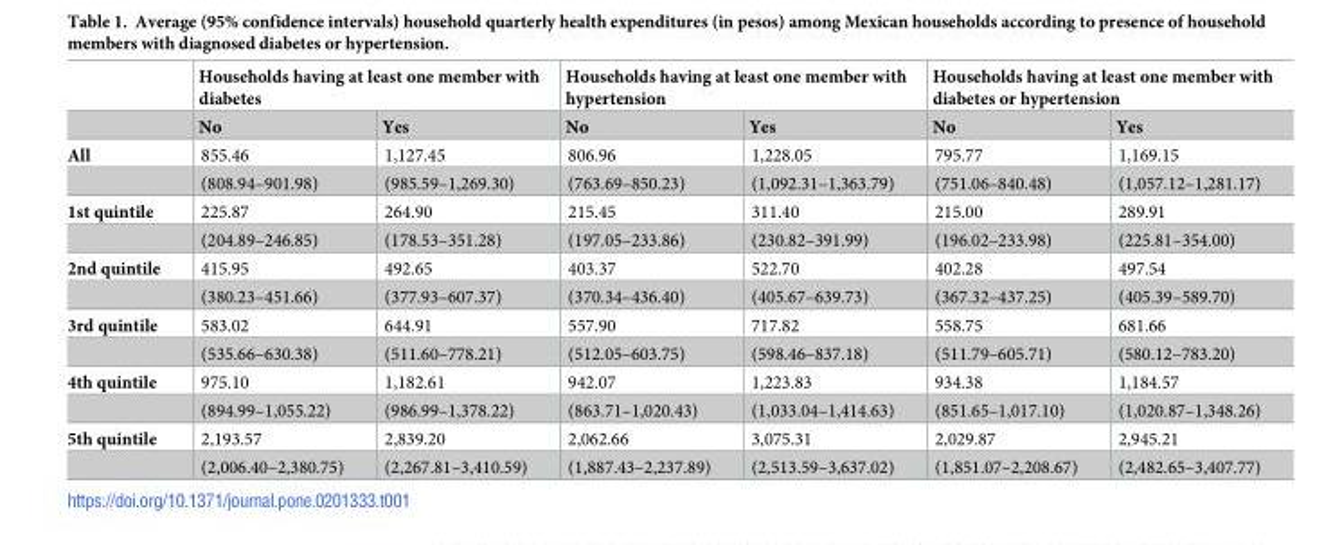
<table><thead><tr><td rowspan="2"></td><td colspan="2">Households having at least one member with diabetes</td><td colspan="2">Households having at least one member with hypertension</td><td colspan="2">Households having at least one member with diabetes or hypertension</td></tr><tr><td>No</td><td>Yes</td><td>No</td><td>Yes</td><td>No</td><td>Yes</td></tr></thead><tbody><tr><td rowspan="2">All</td><td>855.46</td><td>1,127.45</td><td>806.96</td><td>1,228.05</td><td>795.77</td><td>1,169.15</td></tr><tr><td>(808.94–901.98)</td><td>(985.59–1,269.30)</td><td>(763.69–850.23)</td><td>(1,092.31–1,363.79)</td><td>(751.06–840.48)</td><td>(1,057.12–1,281.17)</td></tr><tr><td rowspan="2">1st quintile</td><td>225.87</td><td>264.90</td><td>215.45</td><td>311.40</td><td>215.00</td><td>289.91</td></tr><tr><td>(204.89–246.85)</td><td>(178.53–351.28)</td><td>(197.05–233.86)</td><td>(230.82–391.99)</td><td>(196.02–233.98)</td><td>(225.81–354.00)</td></tr><tr><td rowspan="2">2nd quintile</td><td>415.95</td><td>492.65</td><td>403.37</td><td>522.70</td><td>402.28</td><td>497.54</td></tr><tr><td>(380.23–451.66)</td><td>(377.93–607.37)</td><td>(370.34–436.40)</td><td>(405.67–639.73)</td><td>(367.32–437.25)</td><td>(405.39–589.70)</td></tr><tr><td rowspan="2">3rd quintile</td><td>583.02</td><td>644.91</td><td>557.90</td><td>717.82</td><td>558.75</td><td>681.66</td></tr><tr><td>(535.66–630.38)</td><td>(511.60–778.21)</td><td>(512.05–603.75)</td><td>(598.46–837.18)</td><td>(511.79–605.71)</td><td>(580.12–783.20)</td></tr><tr><td rowspan="2">4th quintile</td><td>975.10</td><td>1,182.61</td><td>942.07</td><td>1,223.83</td><td>934.38</td><td>1,184.57</td></tr><tr><td>(894.99–1,055.22)</td><td>(986.99–1,378.22)</td><td>(863.71–1,020.43)</td><td>(1,033.04–1,414.63)</td><td>(851.65–1,017.10)</td><td>(1,020.87–1,348.26)</td></tr><tr><td rowspan="2">5th quintile</td><td>2,193.57</td><td>2,839.20</td><td>2,062.66</td><td>3,075.31</td><td>2,029.87</td><td>2,945.21</td></tr><tr><td>(2,006.40–2,380.75)</td><td>(2,267.81–3,410.59)</td><td>(1,887.43–2,237.89)</td><td>(2,513.59–3,637.02)</td><td>(1,851.07–2,208.67)</td><td>(2,482.65–3,407.77)</td></tr></tbody></table>